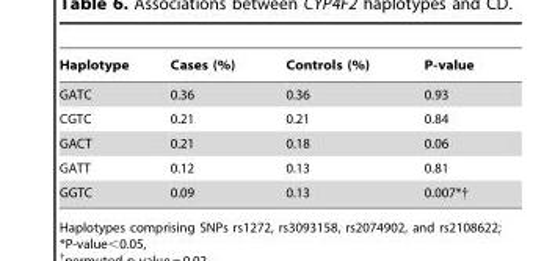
<table><thead><tr><td>Haplotype</td><td>Cases (%)</td><td>Controls (%)</td><td>P-value</td></tr></thead><tbody><tr><td>GATC</td><td>0.36</td><td>0.36</td><td>0.93</td></tr><tr><td>CGTC</td><td>0.21</td><td>0.21</td><td>0.84</td></tr><tr><td>GACT</td><td>0.21</td><td>0.18</td><td>0.06</td></tr><tr><td>GATT</td><td>0.12</td><td>0.13</td><td>0.81</td></tr><tr><td>GGTC</td><td>0.09</td><td>0.13</td><td>0.007*†</td></tr></tbody></table>